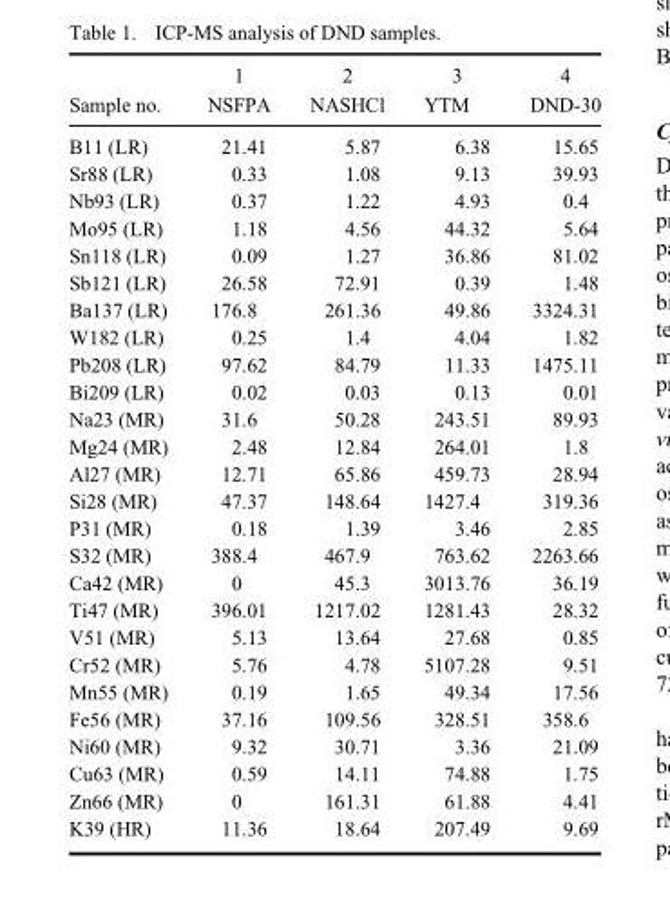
<table><thead><tr><td rowspan="2">Sample no.</td><td rowspan="2">1 NSFPA</td><td rowspan="2">2 NASHCl</td><td rowspan="2">3 YTM</td><td rowspan="2">4 DND-30</td></tr><tr></tr></thead><tbody><tr><td>B11 (LR)</td><td>21.41</td><td>5.87</td><td>6.38</td><td>15.65</td></tr><tr><td>Sr88 (LR)</td><td>0.33</td><td>1.08</td><td>9.13</td><td>39.93</td></tr><tr><td>Nb93 (LR)</td><td>0.37</td><td>1.22</td><td>4.93</td><td>0.4</td></tr><tr><td>Mo95 (LR)</td><td>1.18</td><td>4.56</td><td>44.32</td><td>5.64</td></tr><tr><td>Sn118 (LR)</td><td>0.09</td><td>1.27</td><td>36.86</td><td>81.02</td></tr><tr><td>Sb121 (LR)</td><td>26.58</td><td>72.91</td><td>0.39</td><td>1.48</td></tr><tr><td>Ba137 (LR)</td><td>176.8</td><td>261.36</td><td>49.86</td><td>3324.31</td></tr><tr><td>W182 (LR)</td><td>0.25</td><td>1.4</td><td>4.04</td><td>1.82</td></tr><tr><td>Pb208 (LR)</td><td>97.62</td><td>84.79</td><td>11.33</td><td>1475.11</td></tr><tr><td>Bi209 (LR)</td><td>0.02</td><td>0.03</td><td>0.13</td><td>0.01</td></tr><tr><td>Na23 (MR)</td><td>31.6</td><td>50.28</td><td>243.51</td><td>89.93</td></tr><tr><td>Mg24 (MR)</td><td>2.48</td><td>12.84</td><td>264.01</td><td>1.8</td></tr><tr><td>Al27 (MR)</td><td>12.71</td><td>65.86</td><td>459.73</td><td>28.94</td></tr><tr><td>Si28 (MR)</td><td>47.37</td><td>148.64</td><td>1427.4</td><td>319.36</td></tr><tr><td>P31 (MR)</td><td>0.18</td><td>1.39</td><td>3.46</td><td>2.85</td></tr><tr><td>S32 (MR)</td><td>388.4</td><td>467.9</td><td>763.62</td><td>2263.66</td></tr><tr><td>Ca42 (MR)</td><td>0</td><td>45.3</td><td>3013.76</td><td>36.19</td></tr><tr><td>Ti47 (MR)</td><td>396.01</td><td>1217.02</td><td>1281.43</td><td>28.32</td></tr><tr><td>V51 (MR)</td><td>5.13</td><td>13.64</td><td>27.68</td><td>0.85</td></tr><tr><td>Cr52 (MR)</td><td>5.76</td><td>4.78</td><td>5107.28</td><td>9.51</td></tr><tr><td>Mn55 (MR)</td><td>0.19</td><td>1.65</td><td>49.34</td><td>17.56</td></tr><tr><td>Fe56 (MR)</td><td>37.16</td><td>109.56</td><td>328.51</td><td>358.6</td></tr><tr><td>Ni60 (MR)</td><td>9.32</td><td>30.71</td><td>3.36</td><td>21.09</td></tr><tr><td>Cu63 (MR)</td><td>0.59</td><td>14.11</td><td>74.88</td><td>1.75</td></tr><tr><td>Zn66 (MR)</td><td>0</td><td>161.31</td><td>61.88</td><td>4.41</td></tr><tr><td>K39 (HR)</td><td>11.36</td><td>18.64</td><td>207.49</td><td>9.69</td></tr></tbody></table>